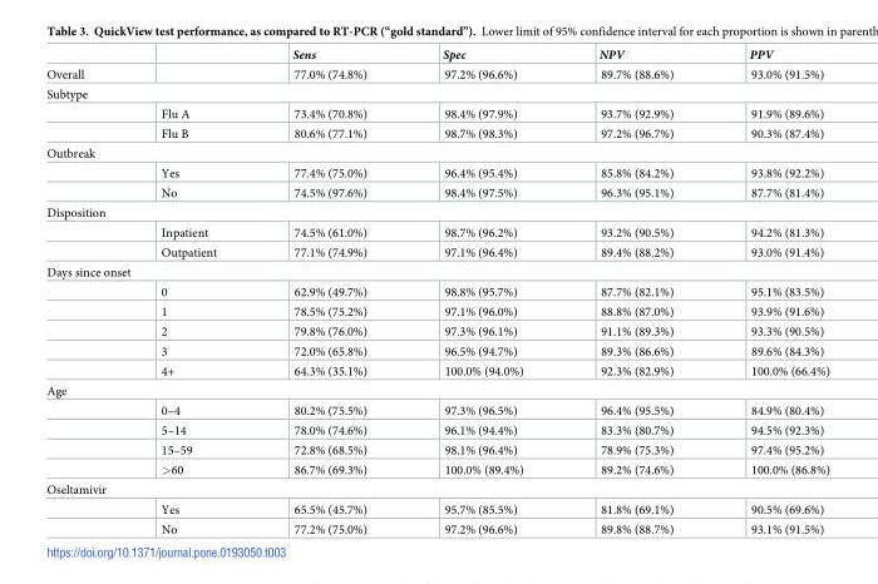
<table><thead><tr><td></td><td></td><td>Sens</td><td>Spec</td><td>NPV</td><td>PPV</td></tr></thead><tbody><tr><td>Overall</td><td></td><td>77.0% (74.8%)</td><td>97.2% (96.6%)</td><td>89.7% (88.6%)</td><td>93.0% (91.5%)</td></tr><tr><td colspan="6">Subtype</td></tr><tr><td></td><td>Flu A</td><td>73.4% (70.8%)</td><td>98.4% (97.9%)</td><td>93.7% (92.9%)</td><td>91.9% (89.6%)</td></tr><tr><td></td><td>Flu B</td><td>80.6% (77.1%)</td><td>98.7% (98.3%)</td><td>97.2% (96.7%)</td><td>90.3% (87.4%)</td></tr><tr><td colspan="6">Outbreak</td></tr><tr><td></td><td>Yes</td><td>77.4% (75.0%)</td><td>96.4% (95.4%)</td><td>85.8% (84.2%)</td><td>93.8% (92.2%)</td></tr><tr><td></td><td>No</td><td>74.5% (97.6%)</td><td>98.4% (97.5%)</td><td>96.3% (95.1%)</td><td>87.7% (81.4%)</td></tr><tr><td colspan="6">Disposition</td></tr><tr><td></td><td>Inpatient</td><td>74.5% (61.0%)</td><td>98.7% (96.2%)</td><td>93.2% (90.5%)</td><td>94.2% (81.3%)</td></tr><tr><td></td><td>Outpatient</td><td>77.1% (74.9%)</td><td>97.1% (96.4%)</td><td>89.4% (88.2%)</td><td>93.0% (91.4%)</td></tr><tr><td colspan="6">Days since onset</td></tr><tr><td></td><td>0</td><td>62.9% (49.7%)</td><td>98.8% (95.7%)</td><td>87.7% (82.1%)</td><td>95.1% (83.5%)</td></tr><tr><td></td><td>1</td><td>78.5% (75.2%)</td><td>97.1% (96.0%)</td><td>88.8% (87.0%)</td><td>93.9% (91.6%)</td></tr><tr><td></td><td>2</td><td>79.8% (76.0%)</td><td>97.3% (96.1%)</td><td>91.1% (89.3%)</td><td>93.3% (90.5%)</td></tr><tr><td></td><td>3</td><td>72.0% (65.8%)</td><td>96.5% (94.7%)</td><td>89.3% (86.6%)</td><td>89.6% (84.3%)</td></tr><tr><td></td><td>4+</td><td>64.3% (35.1%)</td><td>100.0% (94.0%)</td><td>92.3% (82.9%)</td><td>100.0% (66.4%)</td></tr><tr><td colspan="6">Age</td></tr><tr><td></td><td>0–4</td><td>80.2% (75.5%)</td><td>97.3% (96.5%)</td><td>96.4% (95.5%)</td><td>84.9% (80.4%)</td></tr><tr><td></td><td>5–14</td><td>78.0% (74.6%)</td><td>96.1% (94.4%)</td><td>83.3% (80.7%)</td><td>94.5% (92.3%)</td></tr><tr><td></td><td>15–59</td><td>72.8% (68.5%)</td><td>98.1% (96.4%)</td><td>78.9% (75.3%)</td><td>97.4% (95.2%)</td></tr><tr><td></td><td>&gt;60</td><td>86.7% (69.3%)</td><td>100.0% (89.4%)</td><td>89.2% (74.6%)</td><td>100.0% (86.8%)</td></tr><tr><td colspan="6">Oseltamivir</td></tr><tr><td></td><td>Yes</td><td>65.5% (45.7%)</td><td>95.7% (85.5%)</td><td>81.8% (69.1%)</td><td>90.5% (69.6%)</td></tr><tr><td></td><td>No</td><td>77.2% (75.0%)</td><td>97.2% (96.6%)</td><td>89.8% (88.7%)</td><td>93.1% (91.5%)</td></tr></tbody></table>